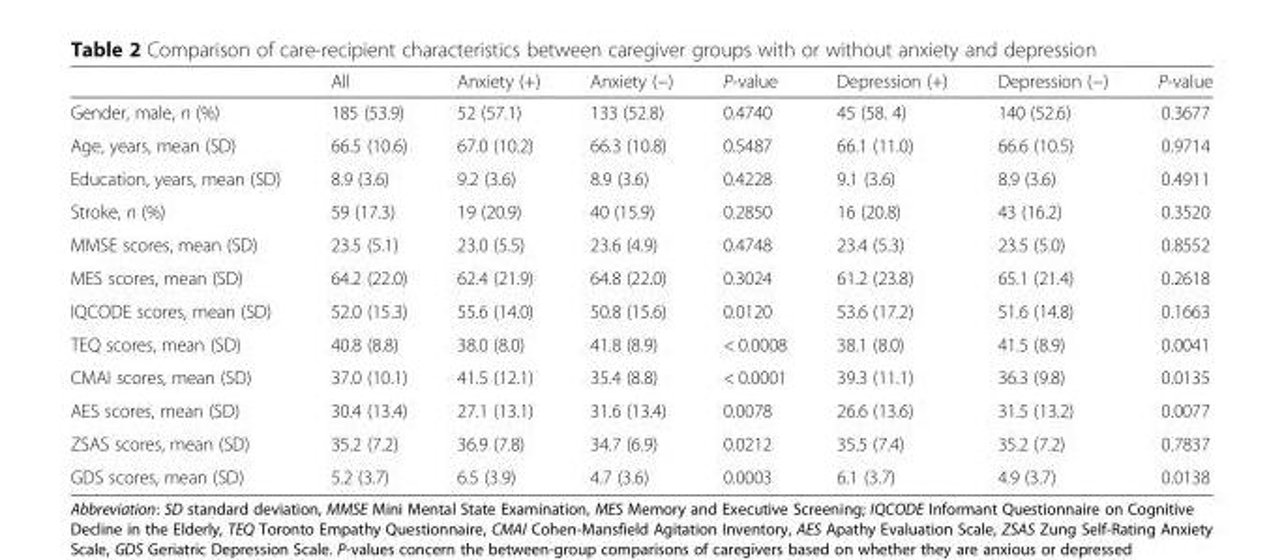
<table><thead><tr><td></td><td>All</td><td>Anxiety (+)</td><td>Anxiety (−)</td><td>P-value</td><td>Depression (+)</td><td>Depression (−)</td><td>P-value</td></tr></thead><tbody><tr><td>Gender, male, n (%)</td><td>185 (53.9)</td><td>52 (57.1)</td><td>133 (52.8)</td><td>0.4740</td><td>45 (58. 4)</td><td>140 (52.6)</td><td>0.3677</td></tr><tr><td>Age, years, mean (SD)</td><td>66.5 (10.6)</td><td>67.0 (10.2)</td><td>66.3 (10.8)</td><td>0.5487</td><td>66.1 (11.0)</td><td>66.6 (10.5)</td><td>0.9714</td></tr><tr><td>Education, years, mean (SD)</td><td>8.9 (3.6)</td><td>9.2 (3.6)</td><td>8.9 (3.6)</td><td>0.4228</td><td>9.1 (3.6)</td><td>8.9 (3.6)</td><td>0.4911</td></tr><tr><td>Stroke, n (%)</td><td>59 (17.3)</td><td>19 (20.9)</td><td>40 (15.9)</td><td>0.2850</td><td>16 (20.8)</td><td>43 (16.2)</td><td>0.3520</td></tr><tr><td>MMSE scores, mean (SD)</td><td>23.5 (5.1)</td><td>23.0 (5.5)</td><td>23.6 (4.9)</td><td>0.4748</td><td>23.4 (5.3)</td><td>23.5 (5.0)</td><td>0.8552</td></tr><tr><td>MES scores, mean (SD)</td><td>64.2 (22.0)</td><td>62.4 (21.9)</td><td>64.8 (22.0)</td><td>0.3024</td><td>61.2 (23.8)</td><td>65.1 (21.4)</td><td>0.2618</td></tr><tr><td>IQCODE scores, mean (SD)</td><td>52.0 (15.3)</td><td>55.6 (14.0)</td><td>50.8 (15.6)</td><td>0.0120</td><td>53.6 (17.2)</td><td>51.6 (14.8)</td><td>0.1663</td></tr><tr><td>TEQ scores, mean (SD)</td><td>40.8 (8.8)</td><td>38.0 (8.0)</td><td>41.8 (8.9)</td><td>&lt; 0.0008</td><td>38.1 (8.0)</td><td>41.5 (8.9)</td><td>0.0041</td></tr><tr><td>CMAI scores, mean (SD)</td><td>37.0 (10.1)</td><td>41.5 (12.1)</td><td>35.4 (8.8)</td><td>&lt; 0.0001</td><td>39.3 (11.1)</td><td>36.3 (9.8)</td><td>0.0135</td></tr><tr><td>AES scores, mean (SD)</td><td>30.4 (13.4)</td><td>27.1 (13.1)</td><td>31.6 (13.4)</td><td>0.0078</td><td>26.6 (13.6)</td><td>31.5 (13.2)</td><td>0.0077</td></tr><tr><td>ZSAS scores, mean (SD)</td><td>35.2 (7.2)</td><td>36.9 (7.8)</td><td>34.7 (6.9)</td><td>0.0212</td><td>35.5 (7.4)</td><td>35.2 (7.2)</td><td>0.7837</td></tr><tr><td>GDS scores, mean (SD)</td><td>5.2 (3.7)</td><td>6.5 (3.9)</td><td>4.7 (3.6)</td><td>0.0003</td><td>6.1 (3.7)</td><td>4.9 (3.7)</td><td>0.0138</td></tr></tbody></table>